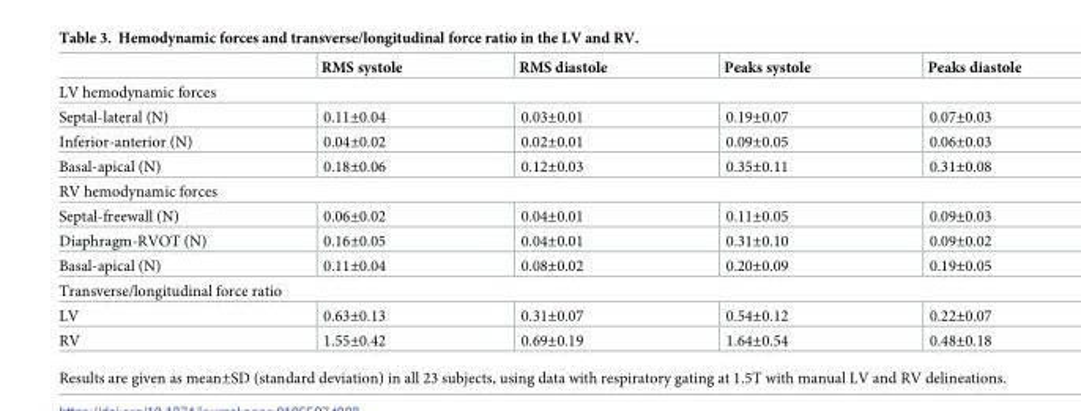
<table><thead><tr><td></td><td>RMS systole</td><td>RMS diastole</td><td>Peaks systole</td><td>Peaks diastole</td></tr></thead><tbody><tr><td colspan="5">LV hemodynamic forces</td></tr><tr><td>Septal-lateral (N)</td><td>0.11±0.04</td><td>0.03±0.01</td><td>0.19±0.07</td><td>0.07±0.03</td></tr><tr><td>Inferior-anterior (N)</td><td>0.04±0.02</td><td>0.02±0.01</td><td>0.09±0.05</td><td>0.06±0.03</td></tr><tr><td>Basal-apical (N)</td><td>0.18±0.06</td><td>0.12±0.03</td><td>0.35±0.11</td><td>0.31±0.08</td></tr><tr><td colspan="5">RV hemodynamic forces</td></tr><tr><td>Septal-freewall (N)</td><td>0.06±0.02</td><td>0.04±0.01</td><td>0.11±0.05</td><td>0.09±0.03</td></tr><tr><td>Diaphragm-RVOT (N)</td><td>0.16±0.05</td><td>0.04±0.01</td><td>0.31±0.10</td><td>0.09±0.02</td></tr><tr><td>Basal-apical (N)</td><td>0.11±0.04</td><td>0.08±0.02</td><td>0.20±0.09</td><td>0.19±0.05</td></tr><tr><td colspan="5">Transverse/longitudinal force ratio</td></tr><tr><td>LV</td><td>0.63±0.13</td><td>0.31±0.07</td><td>0.54±0.12</td><td>0.22±0.07</td></tr><tr><td>RV</td><td>1.55±0.42</td><td>0.69±0.19</td><td>1.64±0.54</td><td>0.48±0.18</td></tr></tbody></table>